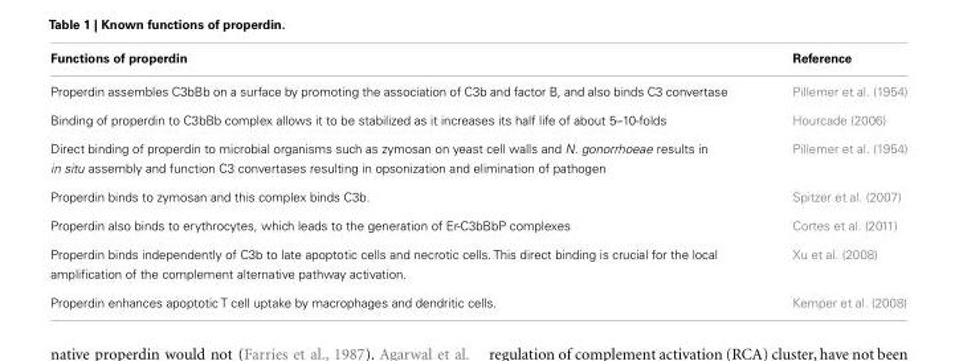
<table><thead><tr><td>Functions of properdin</td><td>Reference</td></tr></thead><tbody><tr><td>Properdin assembles C3bBb on a surface by promoting the association of C3b and factor B, and also binds C3 convertase</td><td>Pillemer et al. (1954)</td></tr><tr><td>Binding of properdin to C3bBb complex allows it to be stabilized as it increases its half life of about 5–10-folds</td><td>Hourcade (2006)</td></tr><tr><td>Direct binding of properdin to microbial organisms such as zymosan on yeast cell walls and N. gonorrhoeae results in in situ assembly and function C3 convertases resulting in opsonization and elimination of pathogen</td><td>Pillemer et al. (1954)</td></tr><tr><td>Properdin binds to zymosan and this complex binds C3b.</td><td>Spitzer et al. (2007)</td></tr><tr><td>Properdin also binds to erythrocytes, which leads to the generation of Er-C3bBbP complexes</td><td>Cortes et al. (2011)</td></tr><tr><td>Properdin binds independently of C3b to late apoptotic cells and necrotic cells. This direct binding is crucial for the local amplification of the complement alternative pathway activation.</td><td>Xu et al. (2008)</td></tr><tr><td>Properdin enhances apoptotic T cell uptake by macrophages and dendritic cells.</td><td>Kemper et al. (2008)</td></tr></tbody></table>